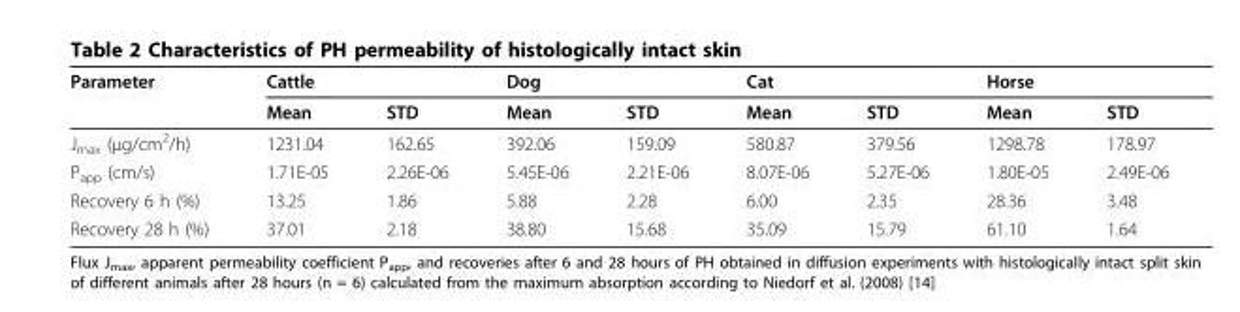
<table><thead><tr><td rowspan="2">Parameter</td><td colspan="2">Cattle</td><td colspan="2">Dog</td><td colspan="2">Cat</td><td colspan="2">Horse</td></tr><tr><td>Mean</td><td>STD</td><td>Mean</td><td>STD</td><td>Mean</td><td>STD</td><td>Mean</td><td>STD</td></tr></thead><tbody><tr><td>J<sub>max</sub> (μg/cm<sup>2</sup>/h)</td><td>1231.04</td><td>162.65</td><td>392.06</td><td>159.09</td><td>580.87</td><td>379.56</td><td>1298.78</td><td>178.97</td></tr><tr><td>P<sub>app</sub> (cm/s)</td><td>1.71E-05</td><td>2.26E-06</td><td>5.45E-06</td><td>2.21E-06</td><td>8.07E-06</td><td>5.27E-06</td><td>1.80E-05</td><td>2.49E-06</td></tr><tr><td>Recovery 6 h (%)</td><td>13.25</td><td>1.86</td><td>5.88</td><td>2.28</td><td>6.00</td><td>2.35</td><td>28.36</td><td>3.48</td></tr><tr><td>Recovery 28 h (%)</td><td>37.01</td><td>2.18</td><td>38.80</td><td>15.68</td><td>35.09</td><td>15.79</td><td>61.10</td><td>1.64</td></tr></tbody></table>